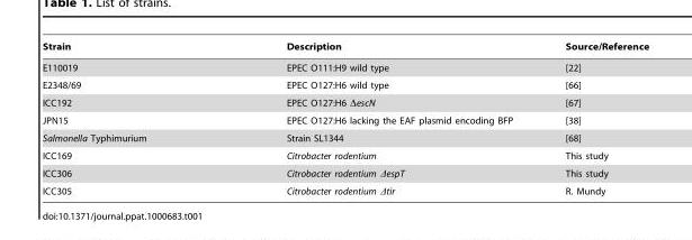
<table><thead><tr><td>Strain</td><td>Description</td><td>Source/Reference</td></tr></thead><tbody><tr><td>E110019</td><td>EPEC O111:H9 wild type</td><td>[22]</td></tr><tr><td>E2348/69</td><td>EPEC O127:H6 wild type</td><td>[66]</td></tr><tr><td>ICC192</td><td>EPEC O127:H6 ΔescN</td><td>[67]</td></tr><tr><td>JPN15</td><td>EPEC O127:H6 lacking the EAF plasmid encoding BFP</td><td>[38]</td></tr><tr><td>Salmonella Typhimurium</td><td>Strain SL1344</td><td>[68]</td></tr><tr><td>ICC169</td><td>Citrobacter rodentium</td><td>This study</td></tr><tr><td>ICC306</td><td>Citrobacter rodentium ΔespT</td><td>This study</td></tr><tr><td>ICC305</td><td>Citrobacter rodentium Δtir</td><td>R. Mundy</td></tr></tbody></table>